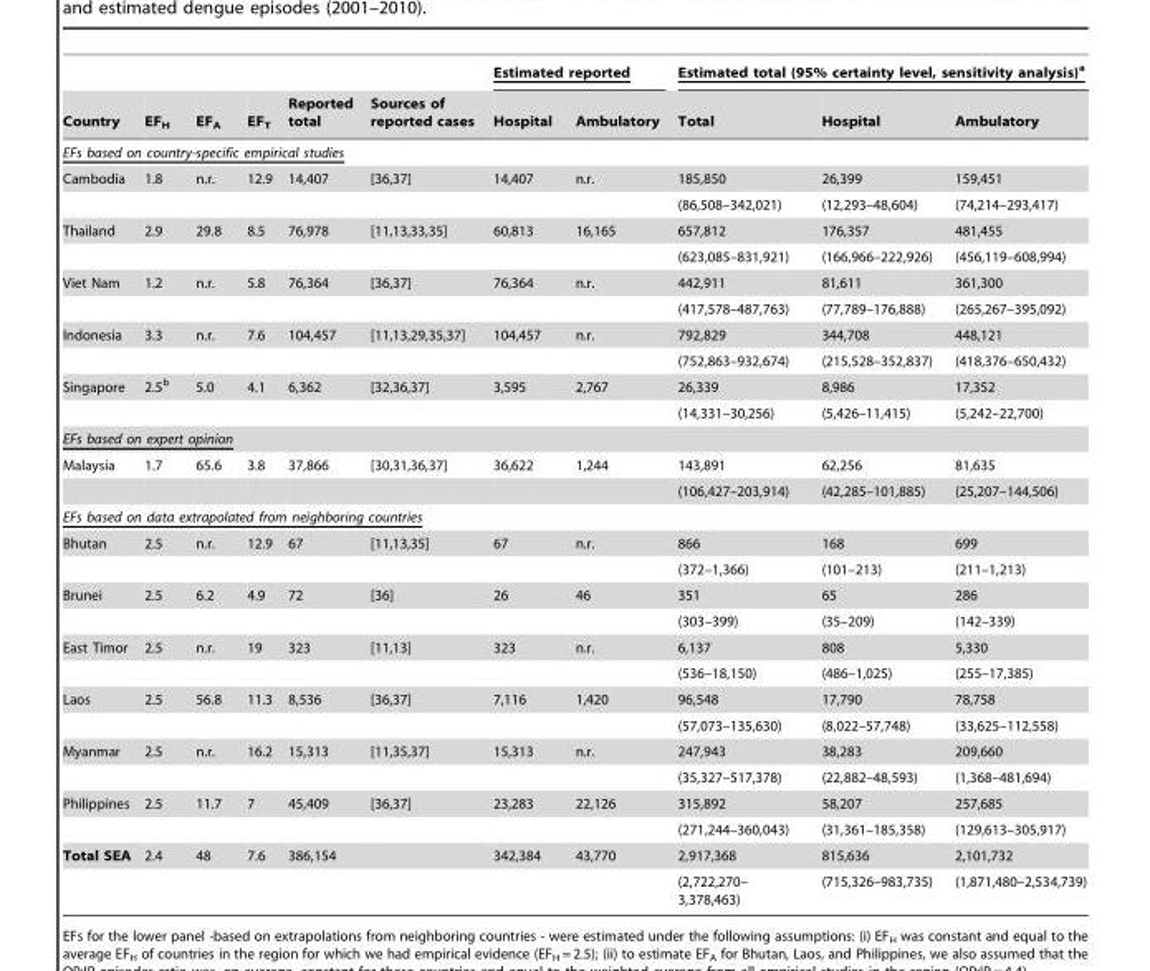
<table><thead><tr><td rowspan="2">Country</td><td rowspan="2">EF<sub>H</sub></td><td rowspan="2">EF<sub>A</sub></td><td rowspan="2">EF<sub>T</sub></td><td rowspan="2">Reported total</td><td rowspan="2">Sources of reported cases</td><td colspan="2">Estimated reported</td><td colspan="3">Estimated total (95% certainty level, sensitivity analysis)a</td></tr><tr><td>Hospital</td><td>Ambulatory</td><td>Total</td><td>Hospital</td><td>Ambulatory</td></tr></thead><tbody><tr><td colspan="11">EFs based on country-specific empirical studies</td></tr><tr><td rowspan="2">Cambodia</td><td>1.8</td><td>n.r.</td><td>12.9</td><td>14,407</td><td>[36,37]</td><td>14,407</td><td>n.r.</td><td>185,850</td><td>26,399</td><td>159,451</td></tr><tr><td></td><td></td><td></td><td></td><td></td><td></td><td></td><td>(86,508–342,021)</td><td>(12,293–48,604)</td><td>(74,214–293,417)</td></tr><tr><td rowspan="2">Thailand</td><td>2.9</td><td>29.8</td><td>8.5</td><td>76,978</td><td>[11,13,33,35]</td><td>60,813</td><td>16,165</td><td>657,812</td><td>176,357</td><td>481,455</td></tr><tr><td></td><td></td><td></td><td></td><td></td><td></td><td></td><td>(623,085–831,921)</td><td>(166,966–222,926)</td><td>(456,119–608,994)</td></tr><tr><td rowspan="2">Viet Nam</td><td>1.2</td><td>n.r.</td><td>5.8</td><td>76,364</td><td>[36,37]</td><td>76,364</td><td>n.r.</td><td>442,911</td><td>81,611</td><td>361,300</td></tr><tr><td></td><td></td><td></td><td></td><td></td><td></td><td></td><td>(417,578–487,763)</td><td>(77,789–176,888)</td><td>(265,267–395,092)</td></tr><tr><td rowspan="2">Indonesia</td><td>3.3</td><td>n.r.</td><td>7.6</td><td>104,457</td><td>[11,13,29,35,37]</td><td>104,457</td><td>n.r.</td><td>792,829</td><td>344,708</td><td>448,121</td></tr><tr><td></td><td></td><td></td><td></td><td></td><td></td><td></td><td>(752,863–932,674)</td><td>(215,528–352,837)</td><td>(418,376–650,432)</td></tr><tr><td rowspan="2">Singapore</td><td>2.5<sup>b</sup></td><td>5.0</td><td>4.1</td><td>6,362</td><td>[32,36,37]</td><td>3,595</td><td>2,767</td><td>26,339</td><td>8,986</td><td>17,352</td></tr><tr><td></td><td></td><td></td><td></td><td></td><td></td><td></td><td>(14,331–30,256)</td><td>(5,426–11,415)</td><td>(5,242–22,700)</td></tr><tr><td colspan="11">EFs based on expert opinion</td></tr><tr><td rowspan="2">Malaysia</td><td>1.7</td><td>65.6</td><td>3.8</td><td>37,866</td><td>[30,31,36,37]</td><td>36,622</td><td>1,244</td><td>143,891</td><td>62,256</td><td>81,635</td></tr><tr><td></td><td></td><td></td><td></td><td></td><td></td><td></td><td>(106,427–203,914)</td><td>(42,285–101,885)</td><td>(25,207–144,506)</td></tr><tr><td colspan="11">EFs based on data extrapolated from neighboring countries</td></tr><tr><td rowspan="2">Bhutan</td><td>2.5</td><td>n.r.</td><td>12.9</td><td>67</td><td>[11,13,35]</td><td>67</td><td>n.r.</td><td>866</td><td>168</td><td>699</td></tr><tr><td></td><td></td><td></td><td></td><td></td><td></td><td></td><td>(372–1,366)</td><td>(101–213)</td><td>(211–1,213)</td></tr><tr><td rowspan="2">Brunei</td><td>2.5</td><td>6.2</td><td>4.9</td><td>72</td><td>[36]</td><td>26</td><td>46</td><td>351</td><td>65</td><td>286</td></tr><tr><td></td><td></td><td></td><td></td><td></td><td></td><td></td><td>(303–399)</td><td>(35–209)</td><td>(142–339)</td></tr><tr><td rowspan="2">East Timor</td><td>2.5</td><td>n.r.</td><td>19</td><td>323</td><td>[11,13]</td><td>323</td><td>n.r.</td><td>6,137</td><td>808</td><td>5,330</td></tr><tr><td></td><td></td><td></td><td></td><td></td><td></td><td></td><td>(536–18,150)</td><td>(486–1,025)</td><td>(255–17,385)</td></tr><tr><td rowspan="2">Laos</td><td>2.5</td><td>56.8</td><td>11.3</td><td>8,536</td><td>[36,37]</td><td>7,116</td><td>1,420</td><td>96,548</td><td>17,790</td><td>78,758</td></tr><tr><td></td><td></td><td></td><td></td><td></td><td></td><td></td><td>(57,073–135,630)</td><td>(8,022–57,748)</td><td>(33,625–112,558)</td></tr><tr><td rowspan="2">Myanmar</td><td>2.5</td><td>n.r.</td><td>16.2</td><td>15,313</td><td>[11,35,37]</td><td>15,313</td><td>n.r.</td><td>247,943</td><td>38,283</td><td>209,660</td></tr><tr><td></td><td></td><td></td><td></td><td></td><td></td><td></td><td>(35,327–517,378)</td><td>(22,882–48,593)</td><td>(1,368–481,694)</td></tr><tr><td rowspan="2">Philippines</td><td>2.5</td><td>11.7</td><td>7</td><td>45,409</td><td>[36,37]</td><td>23,283</td><td>22,126</td><td>315,892</td><td>58,207</td><td>257,685</td></tr><tr><td></td><td></td><td></td><td></td><td></td><td></td><td></td><td>(271,244–360,043)</td><td>(31,361–185,358)</td><td>(129,613–305,917)</td></tr><tr><td rowspan="2">Total SEA</td><td>2.4</td><td>48</td><td>7.6</td><td>386,154</td><td></td><td>342,384</td><td>43,770</td><td>2,917,368</td><td>815,636</td><td>2,101,732</td></tr><tr><td></td><td></td><td></td><td></td><td></td><td></td><td></td><td>(2,722,270– 3,378,463)</td><td>(715,326–983,735)</td><td>(1,871,480–2,534,739)</td></tr></tbody></table>